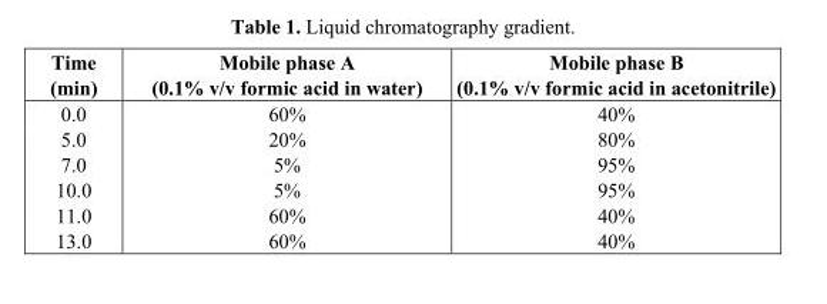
<table><thead><tr><td>Time (min)</td><td>Mobile phase A (0.1% v/v formic acid in water)</td><td>Mobile phase B (0.1% v/v formic acid in acetonitrile)</td></tr></thead><tbody><tr><td>0.0</td><td>60%</td><td>40%</td></tr><tr><td>5.0</td><td>20%</td><td>80%</td></tr><tr><td>7.0</td><td>5%</td><td>95%</td></tr><tr><td>10.0</td><td>5%</td><td>95%</td></tr><tr><td>11.0</td><td>60%</td><td>40%</td></tr><tr><td>13.0</td><td>60%</td><td>40%</td></tr></tbody></table>